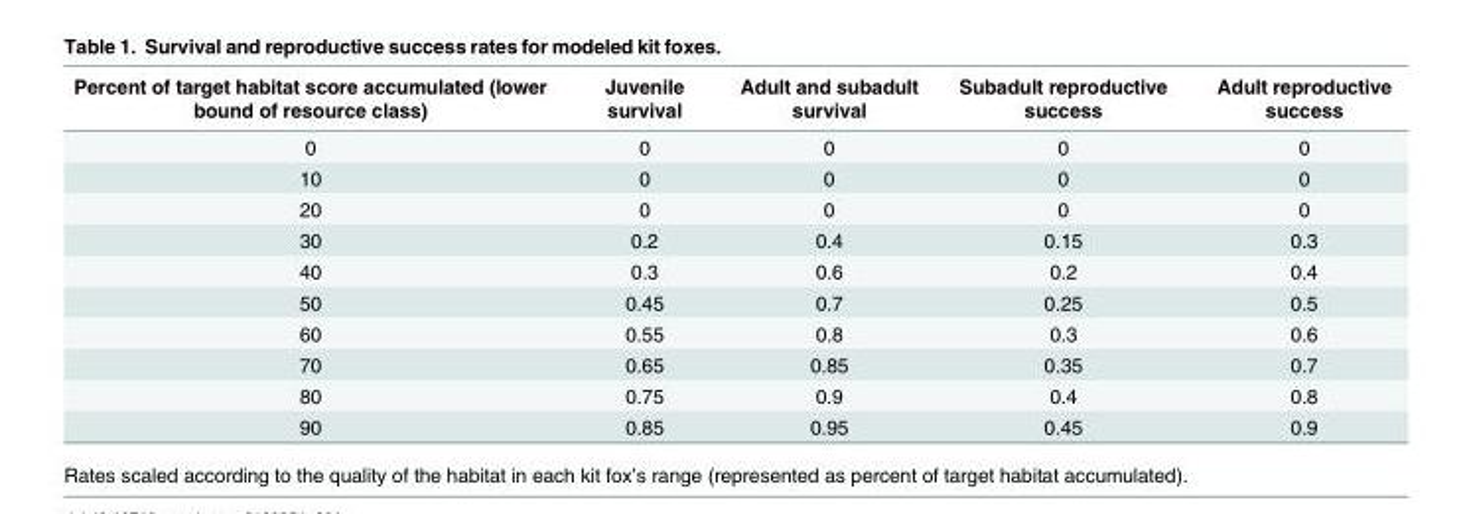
<table><thead><tr><td>Percent of target habitat score accumulated (lower bound of resource class)</td><td>Juvenile survival</td><td>Adult and subadult survival</td><td>Subadult reproductive success</td><td>Adult reproductive success</td></tr></thead><tbody><tr><td>0</td><td>0</td><td>0</td><td>0</td><td>0</td></tr><tr><td>10</td><td>0</td><td>0</td><td>0</td><td>0</td></tr><tr><td>20</td><td>0</td><td>0</td><td>0</td><td>0</td></tr><tr><td>30</td><td>0.2</td><td>0.4</td><td>0.15</td><td>0.3</td></tr><tr><td>40</td><td>0.3</td><td>0.6</td><td>0.2</td><td>0.4</td></tr><tr><td>50</td><td>0.45</td><td>0.7</td><td>0.25</td><td>0.5</td></tr><tr><td>60</td><td>0.55</td><td>0.8</td><td>0.3</td><td>0.6</td></tr><tr><td>70</td><td>0.65</td><td>0.85</td><td>0.35</td><td>0.7</td></tr><tr><td>80</td><td>0.75</td><td>0.9</td><td>0.4</td><td>0.8</td></tr><tr><td>90</td><td>0.85</td><td>0.95</td><td>0.45</td><td>0.9</td></tr></tbody></table>